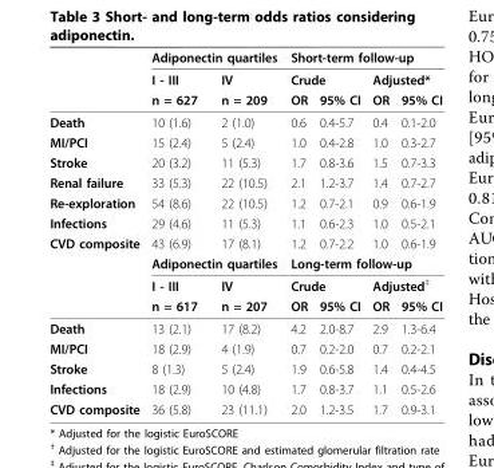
<table><thead><tr><td rowspan="3"></td><td colspan="2">Adiponectin quartiles</td><td colspan="4">Short-term follow-up</td></tr><tr><td rowspan="2">I - III n = 627</td><td rowspan="2">IV n = 209</td><td colspan="2">Crude</td><td colspan="2">Adjusted*</td></tr><tr><td>OR</td><td>95% CI</td><td>OR</td><td>95% CI</td></tr></thead><tbody><tr><td>Death</td><td>10 (1.6)</td><td>2 (1.0)</td><td>0.6</td><td>0.4-5.7</td><td>0.4</td><td>0.1-2.0</td></tr><tr><td>MI/PCI</td><td>15 (2.4)</td><td>5 (2.4)</td><td>1.0</td><td>0.4-2.8</td><td>1.0</td><td>0.3-2.7</td></tr><tr><td>Stroke</td><td>20 (3.2)</td><td>11 (5.3)</td><td>1.7</td><td>0.8-3.6</td><td>1.5</td><td>0.7-3.3</td></tr><tr><td>Renal failure</td><td>33 (5.3)</td><td>22 (10.5)</td><td>2.1</td><td>1.2-3.7</td><td>1.4</td><td>0.7-2.7</td></tr><tr><td>Re-exploration</td><td>54 (8.6)</td><td>22 (10.5)</td><td>1.2</td><td>0.7-2.1</td><td>0.9</td><td>0.6-1.9</td></tr><tr><td>Infections</td><td>29 (4.6)</td><td>11 (5.3)</td><td>1.1</td><td>0.6-2.3</td><td>1.0</td><td>0.5-2.1</td></tr><tr><td rowspan="4">CVD composite</td><td>43 (6.9)</td><td>17 (8.1)</td><td>1.2</td><td>0.7-2.2</td><td>1.0</td><td>0.6-1.9</td></tr><tr><td colspan="2">Adiponectin quartiles</td><td colspan="4">Long-term follow-up</td></tr><tr><td>I - III</td><td>IV</td><td colspan="2">Crude</td><td colspan="2">Adjusted<sup>‡</sup></td></tr><tr><td>n = 617</td><td>n = 207</td><td>OR</td><td>95% CI</td><td>OR</td><td>95% CI</td></tr><tr><td>Death</td><td>13 (2.1)</td><td>17 (8.2)</td><td>4.2</td><td>2.0-8.7</td><td>2.9</td><td>1.3-6.4</td></tr><tr><td>MI/PCI</td><td>18 (2.9)</td><td>4 (1.9)</td><td>0.7</td><td>0.2-2.0</td><td>0.7</td><td>0.2-2.1</td></tr><tr><td>Stroke</td><td>8 (1.3)</td><td>5 (2.4)</td><td>1.9</td><td>0.6-5.8</td><td>1.4</td><td>0.4-4.5</td></tr><tr><td>Infections</td><td>18 (2.9)</td><td>10 (4.8)</td><td>1.7</td><td>0.8-3.7</td><td>1.1</td><td>0.5-2.6</td></tr><tr><td>CVD composite</td><td>36 (5.8)</td><td>23 (11.1)</td><td>2.0</td><td>1.2-3.5</td><td>1.7</td><td>0.9-3.1</td></tr></tbody></table>